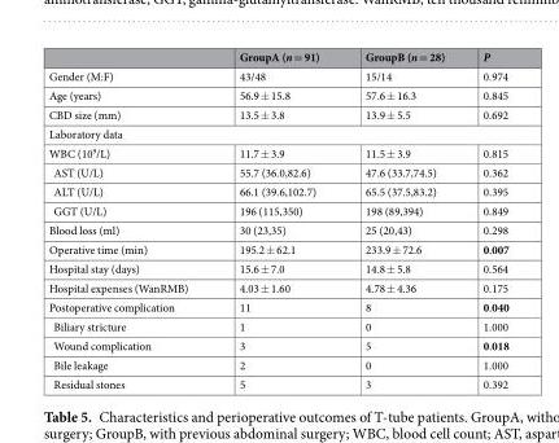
<table><thead><tr><td></td><td>GroupA (n = 91)</td><td>GroupB (n = 28)</td><td>P</td></tr></thead><tbody><tr><td>Gender (M:F)</td><td>43/48</td><td>15/14</td><td>0.974</td></tr><tr><td>Age (years)</td><td>56.9 ± 15.8</td><td>57.6 ± 16.3</td><td>0.845</td></tr><tr><td>CBD size (mm)</td><td>13.5 ± 3.8</td><td>13.9 ± 5.5</td><td>0.692</td></tr><tr><td colspan="4">Laboratory data</td></tr><tr><td>WBC (10<sup>9</sup>/L)</td><td>11.7 ± 3.9</td><td>11.5 ± 3.9</td><td>0.815</td></tr><tr><td>AST (U/L)</td><td>55.7 (36.0,82.6)</td><td>47.6 (33.7,74.5)</td><td>0.362</td></tr><tr><td>ALT (U/L)</td><td>66.1 (39.6,102.7)</td><td>65.5 (37.5,83.2)</td><td>0.395</td></tr><tr><td>GGT (U/L)</td><td>196 (115,350)</td><td>198 (89,394)</td><td>0.849</td></tr><tr><td>Blood loss (ml)</td><td>30 (23,35)</td><td>25 (20,43)</td><td>0.298</td></tr><tr><td>Operative time (min)</td><td>195.2 ± 62.1</td><td>233.9 ± 72.6</td><td>0.007</td></tr><tr><td>Hospital stay (days)</td><td>15.6 ± 7.0</td><td>14.8 ± 5.8</td><td>0.564</td></tr><tr><td>Hospital expenses (WanRMB)</td><td>4.03 ± 1.60</td><td>4.78 ± 4.36</td><td>0.175</td></tr><tr><td>Postoperative complication</td><td>11</td><td>8</td><td>0.040</td></tr><tr><td>Biliary stricture</td><td>1</td><td>0</td><td>1.000</td></tr><tr><td>Wound complication</td><td>3</td><td>5</td><td>0.018</td></tr><tr><td>Bile leakage</td><td>2</td><td>0</td><td>1.000</td></tr><tr><td>Residual stones</td><td>5</td><td>3</td><td>0.392</td></tr></tbody></table>